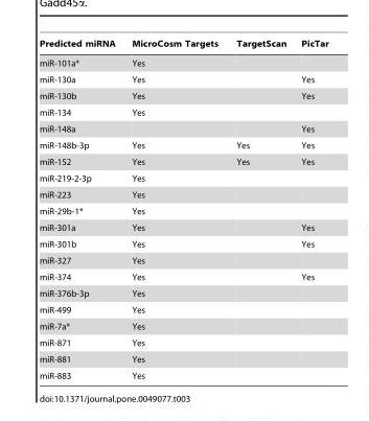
<table><thead><tr><td>Predicted miRNA</td><td>MicroCosm Targets</td><td>TargetScan</td><td>PicTar</td></tr></thead><tbody><tr><td>miR-101a*</td><td>Yes</td><td></td><td></td></tr><tr><td>miR-130a</td><td>Yes</td><td></td><td>Yes</td></tr><tr><td>miR-130b</td><td>Yes</td><td></td><td>Yes</td></tr><tr><td>miR-134</td><td>Yes</td><td></td><td></td></tr><tr><td>miR-148a</td><td></td><td></td><td>Yes</td></tr><tr><td>miR-148b-3p</td><td>Yes</td><td>Yes</td><td>Yes</td></tr><tr><td>miR-152</td><td>Yes</td><td>Yes</td><td>Yes</td></tr><tr><td>miR-219-2-3p</td><td>Yes</td><td></td><td></td></tr><tr><td>miR-223</td><td>Yes</td><td></td><td></td></tr><tr><td>miR-29b-1*</td><td>Yes</td><td></td><td></td></tr><tr><td>miR-301a</td><td>Yes</td><td></td><td>Yes</td></tr><tr><td>miR-301b</td><td>Yes</td><td></td><td>Yes</td></tr><tr><td>miR-327</td><td>Yes</td><td></td><td></td></tr><tr><td>miR-374</td><td>Yes</td><td></td><td>Yes</td></tr><tr><td>miR-376b-3p</td><td>Yes</td><td></td><td></td></tr><tr><td>miR-499</td><td>Yes</td><td></td><td></td></tr><tr><td>miR-7a*</td><td>Yes</td><td></td><td></td></tr><tr><td>miR-871</td><td>Yes</td><td></td><td></td></tr><tr><td>miR-881</td><td>Yes</td><td></td><td></td></tr><tr><td>miR-883</td><td>Yes</td><td></td><td></td></tr></tbody></table>